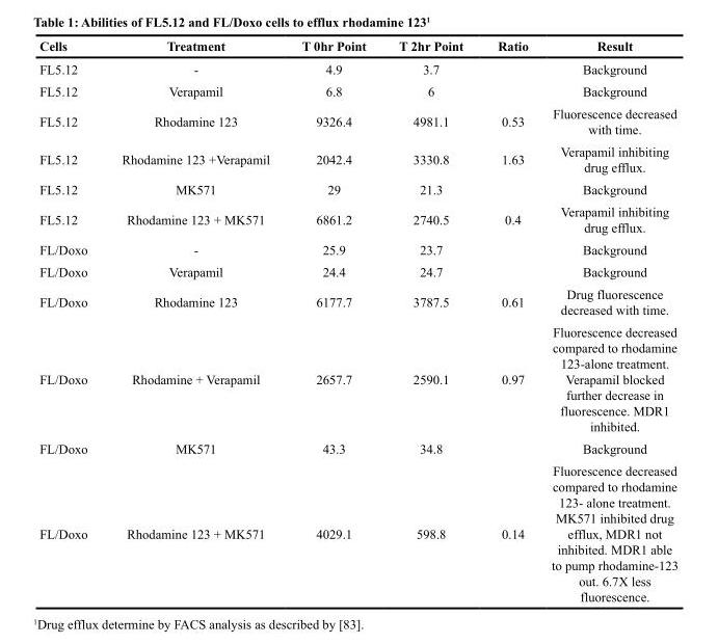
<table><thead><tr><td>Cells</td><td>Treatment</td><td>T 0hr Point</td><td>T 2hr Point</td><td>Ratio</td><td>Result</td></tr></thead><tbody><tr><td>FL5.12</td><td>-</td><td>4.9</td><td>3.7</td><td></td><td>Background</td></tr><tr><td>FL5.12</td><td>Verapamil</td><td>6.8</td><td>6</td><td></td><td>Background</td></tr><tr><td>FL5.12</td><td>Rhodamine 123</td><td>9326.4</td><td>4981.1</td><td>0.53</td><td>Fluorescence decreased with time.</td></tr><tr><td>FL5.12</td><td>Rhodamine 123 +Verapamil</td><td>2042.4</td><td>3330.8</td><td>1.63</td><td>Verapamil inhibiting drug efflux.</td></tr><tr><td>FL5.12</td><td>MK571</td><td>29</td><td>21.3</td><td></td><td>Background</td></tr><tr><td>FL5.12</td><td>Rhodamine 123 + MK571</td><td>6861.2</td><td>2740.5</td><td>0.4</td><td>Verapamil inhibiting drug efflux.</td></tr><tr><td>FL/Doxo</td><td>-</td><td>25.9</td><td>23.7</td><td></td><td>Background</td></tr><tr><td>FL/Doxo</td><td>Verapamil</td><td>24.4</td><td>24.7</td><td></td><td>Background</td></tr><tr><td>FL/Doxo</td><td>Rhodamine 123</td><td>6177.7</td><td>3787.5</td><td>0.61</td><td>Drug fluorescence decreased with time.</td></tr><tr><td>FL/Doxo</td><td>Rhodamine + Verapamil</td><td>2657.7</td><td>2590.1</td><td>0.97</td><td>Fluorescence decreased compared to rhodamine 123-alone treatment. Verapamil blocked further decrease in fluorescence. MDR1 inhibited.</td></tr><tr><td>FL/Doxo</td><td>MK571</td><td>43.3</td><td>34.8</td><td></td><td>Background</td></tr><tr><td>FL/Doxo</td><td>Rhodamine 123 + MK571</td><td>4029.1</td><td>598.8</td><td>0.14</td><td>Fluorescence decreased compared to rhodamine 123- alone treatment. MK571 inhibited drug efflux, MDR1 not inhibited. MDR1 able to pump rhodamine-123 out. 6.7X less fluorescence.</td></tr></tbody></table>